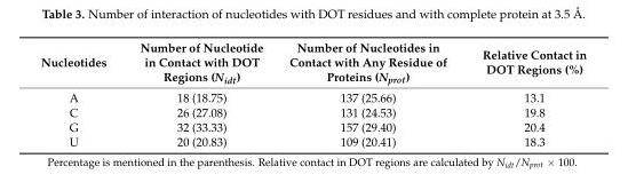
<table><thead><tr><td>Nucleotides</td><td>Number of Nucleotide in Contact with DOT Regions (N<sub>idt</sub>)</td><td>Number of Nucleotides in Contact with Any Residue of Proteins (N<sub>prot</sub>)</td><td>Relative Contact in DOT Regions (%)</td></tr></thead><tbody><tr><td>A</td><td>18 (18.75)</td><td>137 (25.66)</td><td>13.1</td></tr><tr><td>C</td><td>26 (27.08)</td><td>131 (24.53)</td><td>19.8</td></tr><tr><td>G</td><td>32 (33.33)</td><td>157 (29.40)</td><td>20.4</td></tr><tr><td>U</td><td>20 (20.83)</td><td>109 (20.41)</td><td>18.3</td></tr></tbody></table>